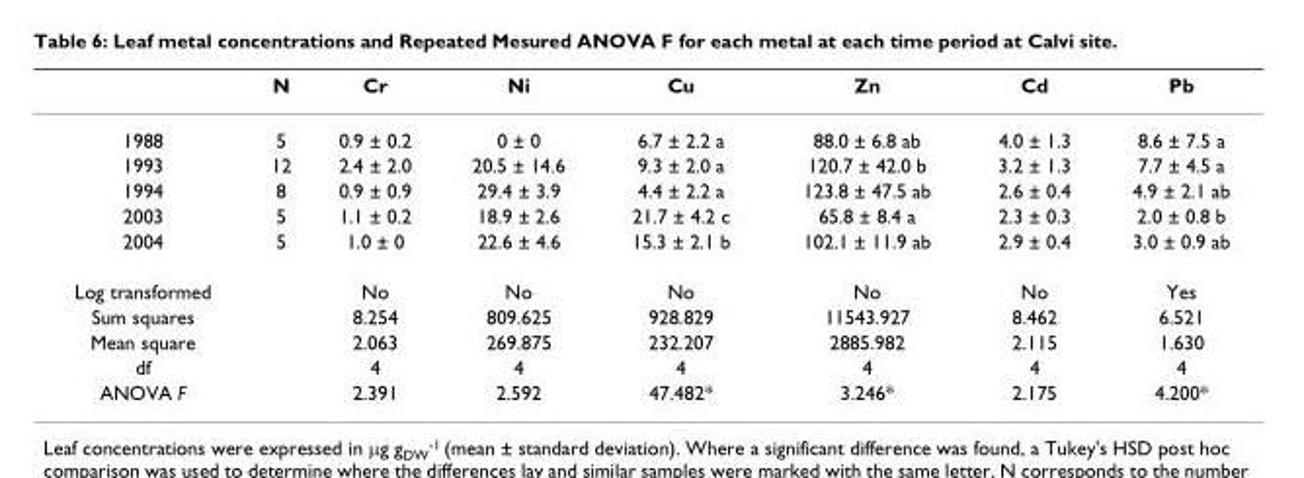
<table><thead><tr><td></td><td>N</td><td>Cr</td><td>Ni</td><td>Cu</td><td>Zn</td><td>Cd</td><td>Pb</td></tr></thead><tbody><tr><td>1988</td><td>5</td><td>0.9 ± 0.2</td><td>0 ± 0</td><td>6.7 ± 2.2 a</td><td>88.0 ± 6.8 ab</td><td>4.0 ± 1.3</td><td>8.6 ± 7.5 a</td></tr><tr><td>1993</td><td>12</td><td>2.4 ± 2.0</td><td>20.5 ± 14.6</td><td>9.3 ± 2.0 a</td><td>120.7 ± 42.0 b</td><td>3.2 ± 1.3</td><td>7.7 ± 4.5 a</td></tr><tr><td>1994</td><td>8</td><td>0.9 ± 0.9</td><td>29.4 ± 3.9</td><td>4.4 ± 2.2 a</td><td>123.8 ± 47.5 ab</td><td>2.6 ± 0.4</td><td>4.9 ± 2.1 ab</td></tr><tr><td>2003</td><td>5</td><td>1.1 ± 0.2</td><td>18.9 ± 2.6</td><td>21.7 ± 4.2 c</td><td>65.8 ± 8.4 a</td><td>2.3 ± 0.3</td><td>2.0 ± 0.8 b</td></tr><tr><td>2004</td><td>5</td><td>1.0 ± 0</td><td>22.6 ± 4.6</td><td>15.3 ± 2.1 b</td><td>102.1 ± 11.9 ab</td><td>2.9 ± 0.4</td><td>3.0 ± 0.9 ab</td></tr><tr><td>Log transformed</td><td></td><td>No</td><td>No</td><td>No</td><td>No</td><td>No</td><td>Yes</td></tr><tr><td>Sum squares</td><td></td><td>8.254</td><td>809.625</td><td>928.829</td><td>11543.927</td><td>8.462</td><td>6.521</td></tr><tr><td>Mean square</td><td></td><td>2.063</td><td>269.875</td><td>232.207</td><td>2885.982</td><td>2.115</td><td>1.630</td></tr><tr><td>df</td><td></td><td>4</td><td>4</td><td>4</td><td>4</td><td>4</td><td>4</td></tr><tr><td>ANOVA F</td><td></td><td>2.391</td><td>2.592</td><td>47.482*</td><td>3.246*</td><td>2.175</td><td>4.200*</td></tr></tbody></table>